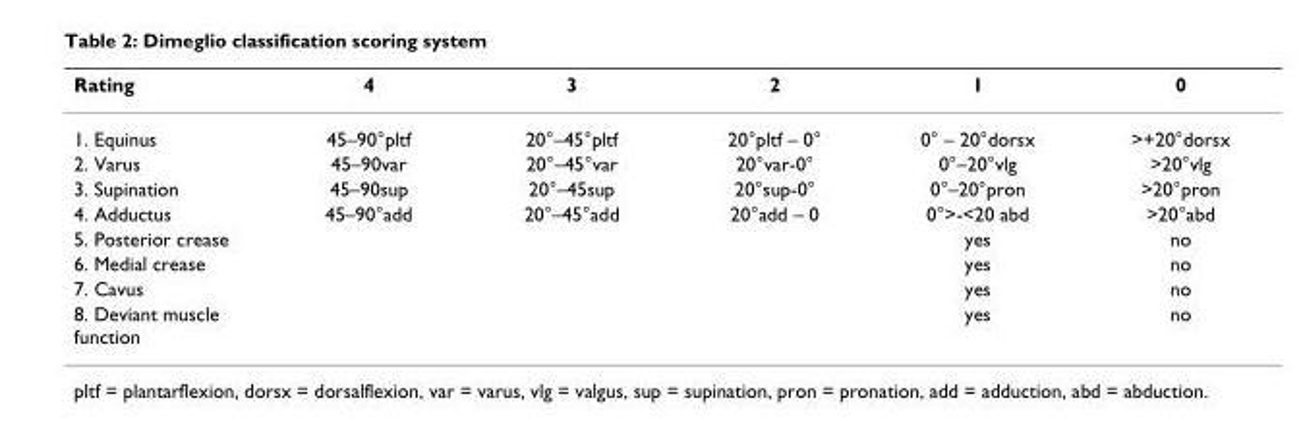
<table><thead><tr><td>Rating</td><td>4</td><td>3</td><td>2</td><td>1</td><td>0</td></tr></thead><tbody><tr><td>1. Equinus</td><td>45–90°pltf</td><td>20°–45°pltf</td><td>20°pltf – 0°</td><td>0° – 20°dorsx</td><td>&gt;+20°dorsx</td></tr><tr><td>2. Varus</td><td>45–90var</td><td>20°–45°var</td><td>20°var-0°</td><td>0°–20°vlg</td><td>&gt;20°vlg</td></tr><tr><td>3. Supination</td><td>45–90sup</td><td>20°–45sup</td><td>20°sup-0°</td><td>0°–20°pron</td><td>&gt;20°pron</td></tr><tr><td>4. Adductus</td><td>45–90°add</td><td>20°–45°add</td><td>20°add – 0</td><td>0°&gt;-&lt;20 abd</td><td>&gt;20°abd</td></tr><tr><td>5. Posterior crease</td><td></td><td></td><td></td><td>yes</td><td>no</td></tr><tr><td>6. Medial crease</td><td></td><td></td><td></td><td>yes</td><td>no</td></tr><tr><td>7. Cavus</td><td></td><td></td><td></td><td>yes</td><td>no</td></tr><tr><td>8. Deviant muscle function</td><td></td><td></td><td></td><td>yes</td><td>no</td></tr></tbody></table>